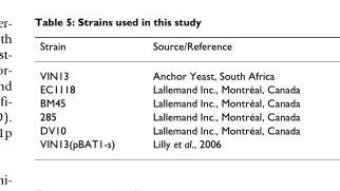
<table><thead><tr><td>Strain</td><td>Source/Reference</td></tr></thead><tbody><tr><td>VIN13</td><td>Anchor Yeast, South Africa</td></tr><tr><td>EC1118</td><td>Lallemand Inc., Montréal, Canada</td></tr><tr><td>BM45</td><td>Lallemand Inc., Montréal, Canada</td></tr><tr><td>285</td><td>Lallemand Inc., Montréal, Canada</td></tr><tr><td>DV10</td><td>Lallemand Inc., Montréal, Canada</td></tr><tr><td>VIN13(pBAT1-s)</td><td>Lilly et al., 2006</td></tr></tbody></table>